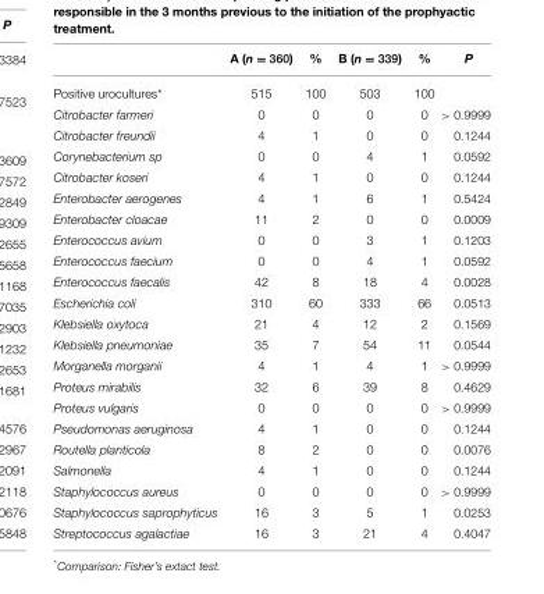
<table><thead><tr><td></td><td>A (n = 360)</td><td>%</td><td>B (n = 339)</td><td>%</td><td>P</td></tr></thead><tbody><tr><td>Positive urocultures*</td><td>515</td><td>100</td><td>503</td><td>100</td><td></td></tr><tr><td>Citrobacter farmeri</td><td>0</td><td>0</td><td>0</td><td>0</td><td>&gt; 0.9999</td></tr><tr><td>Citrobacter freundii</td><td>4</td><td>1</td><td>0</td><td>0</td><td>0.1244</td></tr><tr><td>Corynebacterium sp</td><td>0</td><td>0</td><td>4</td><td>1</td><td>0.0592</td></tr><tr><td>Citrobacter koseri</td><td>4</td><td>1</td><td>0</td><td>0</td><td>0.1244</td></tr><tr><td>Enterobacter aerogenes</td><td>4</td><td>1</td><td>6</td><td>1</td><td>0.5424</td></tr><tr><td>Enterobacter cloacae</td><td>11</td><td>2</td><td>0</td><td>0</td><td>0.0009</td></tr><tr><td>Enterococcus avium</td><td>0</td><td>0</td><td>3</td><td>1</td><td>0.1203</td></tr><tr><td>Enterococcus faecium</td><td>0</td><td>0</td><td>4</td><td>1</td><td>0.0592</td></tr><tr><td>Enterococcus faecalis</td><td>42</td><td>8</td><td>18</td><td>4</td><td>0.0028</td></tr><tr><td>Escherichia coli</td><td>310</td><td>60</td><td>333</td><td>66</td><td>0.0513</td></tr><tr><td>Klebsiella oxytoca</td><td>21</td><td>4</td><td>12</td><td>2</td><td>0.1569</td></tr><tr><td>Klebsiella pneumoniae</td><td>35</td><td>7</td><td>54</td><td>11</td><td>0.0544</td></tr><tr><td>Morganella morganii</td><td>4</td><td>1</td><td>4</td><td>1</td><td>&gt; 0.9999</td></tr><tr><td>Proteus mirabilis</td><td>32</td><td>6</td><td>39</td><td>8</td><td>0.4629</td></tr><tr><td>Proteus vulgaris</td><td>0</td><td>0</td><td>0</td><td>0</td><td>&gt; 0.9999</td></tr><tr><td>Pseudomonas aeruginosa</td><td>4</td><td>1</td><td>0</td><td>0</td><td>0.1244</td></tr><tr><td>Routella planticola</td><td>8</td><td>2</td><td>0</td><td>0</td><td>0.0076</td></tr><tr><td>Salmonella</td><td>4</td><td>1</td><td>0</td><td>0</td><td>0.1244</td></tr><tr><td>Staphylococcus aureus</td><td>0</td><td>0</td><td>0</td><td>0</td><td>&gt; 0.9999</td></tr><tr><td>Staphylococcus saprophyticus</td><td>16</td><td>3</td><td>5</td><td>1</td><td>0.0253</td></tr><tr><td>Streptococcus agalactiae</td><td>16</td><td>3</td><td>21</td><td>4</td><td>0.4047</td></tr></tbody></table>